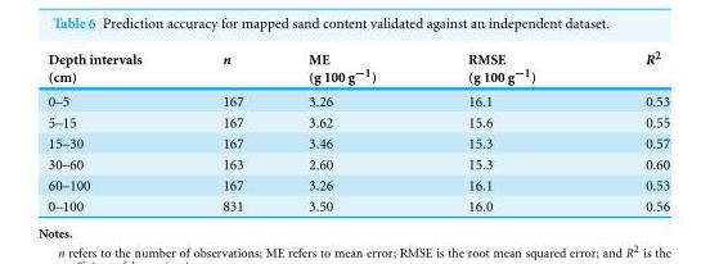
<table><thead><tr><td>Depth intervals (cm)</td><td>n</td><td>ME (g 100 g<sup>−1</sup>)</td><td>RMSE (g 100 g<sup>−1</sup>)</td><td>R<sup>2</sup></td></tr></thead><tbody><tr><td>0–5</td><td>167</td><td>3.26</td><td>16.1</td><td>0.53</td></tr><tr><td>5–15</td><td>167</td><td>3.62</td><td>15.6</td><td>0.55</td></tr><tr><td>15–30</td><td>167</td><td>3.46</td><td>15.3</td><td>0.57</td></tr><tr><td>30–60</td><td>163</td><td>2.60</td><td>15.3</td><td>0.60</td></tr><tr><td>60–100</td><td>167</td><td>3.26</td><td>16.1</td><td>0.53</td></tr><tr><td>0–100</td><td>831</td><td>3.50</td><td>16.0</td><td>0.56</td></tr></tbody></table>